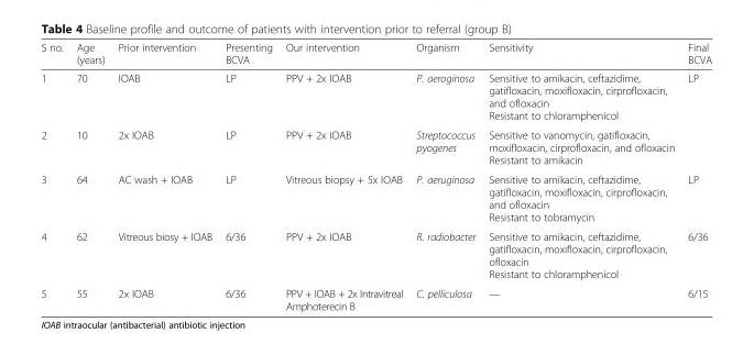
<table><thead><tr><td>S no.</td><td>Age (years)</td><td>Prior intervention</td><td>Presenting BCVA</td><td>Our intervention</td><td>Organism</td><td>Sensitivity</td><td>Final BCVA</td></tr></thead><tbody><tr><td>1</td><td>70</td><td>IOAB</td><td>LP</td><td>PPV + 2x IOAB</td><td>P. aeroginosa</td><td>Sensitive to amikacin, ceftazidime, gatifloxacin, moxifloxacin, cirprofloxacin, and ofloxacin Resistant to chloramphenicol</td><td>LP</td></tr><tr><td>2</td><td>10</td><td>2x IOAB</td><td>LP</td><td>PPV + 2x IOAB</td><td>Streptococcus pyogenes</td><td>Sensitive to vanomycin, gatifloxacin, moxifloxacin, cirprofloxacin, and ofloxacin Resistant to amikacin</td><td></td></tr><tr><td>3</td><td>64</td><td>AC wash + IOAB</td><td>LP</td><td>Vitreous biopsy + 5x IOAB</td><td>P. aeruginosa</td><td>Sensitive to amikacin, ceftazidime, gatifloxacin, moxifloxacin, cirprofloxacin, and ofloxacin Resistant to tobramycin</td><td>LP</td></tr><tr><td>4</td><td>62</td><td>Vitreous biosy + IOAB</td><td>6/36</td><td>PPV + 2x IOAB</td><td>R. radiobacter</td><td>Sensitive to amikacin, ceftazidime, gatifloxacin, moxifloxacin, cirprofloxacin, ofloxacin Resistant to chloramphenicol</td><td>6/36</td></tr><tr><td>5</td><td>55</td><td>2x IOAB</td><td>6/36</td><td>PPV + IOAB + 2x Intravitreal Amphoterecin B</td><td>C. pelliculosa</td><td>—</td><td>6/15</td></tr></tbody></table>